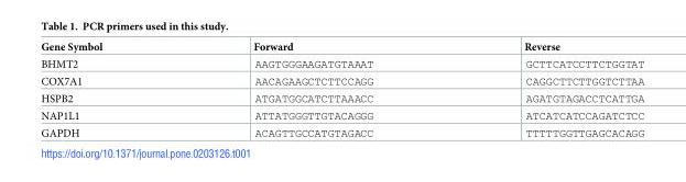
<table><thead><tr><td>Gene Symbol</td><td>Forward</td><td>Reverse</td></tr></thead><tbody><tr><td>BHMT2</td><td>AAGTGGGAAGATGTAAAT</td><td>GCTTCATCCTTCTGGTAT</td></tr><tr><td>COX7A1</td><td>AACAGAAGCTCTTCCAGG</td><td>CAGGCTTCTTGGTCTTAA</td></tr><tr><td>HSPB2</td><td>ATGATGGCATCTTAAACC</td><td>AGATGTAGACCTCATTGA</td></tr><tr><td>NAP1L1</td><td>ATTATGGGTTGTACAGGG</td><td>ATCATCATCCAGATCTCC</td></tr><tr><td>GAPDH</td><td>ACAGTTGCCATGTAGACC</td><td>TTTTTGGTTGAGCACAGG</td></tr></tbody></table>